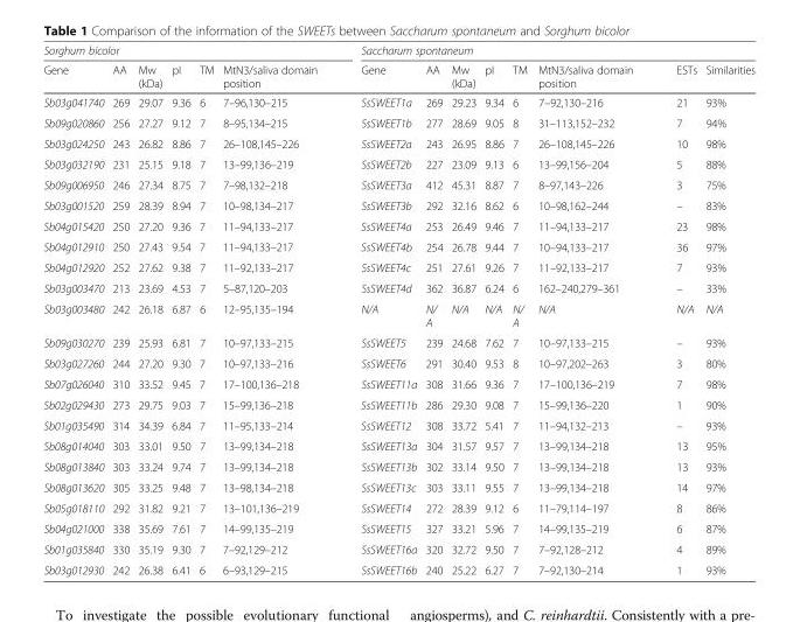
<table><thead><tr><td colspan="6">Sorghum bicolor</td><td colspan="8">Saccharum spontaneum</td></tr><tr><td>Gene</td><td>AA</td><td>Mw (kDa)</td><td>pI</td><td>TM</td><td>MtN3/saliva domain position</td><td>Gene</td><td>AA</td><td>Mw (kDa)</td><td>pI</td><td>TM</td><td>MtN3/saliva domain position</td><td>ESTs</td><td>Similarities</td></tr></thead><tbody><tr><td>Sb03g041740</td><td>269</td><td>29.07</td><td>9.36</td><td>6</td><td>7–96,130–215</td><td>SsSWEET1a</td><td>269</td><td>29.23</td><td>9.34</td><td>6</td><td>7–92,130–216</td><td>21</td><td>93%</td></tr><tr><td>Sb09g020860</td><td>256</td><td>27.27</td><td>9.12</td><td>7</td><td>8–95,134–215</td><td>SsSWEET1b</td><td>277</td><td>28.69</td><td>9.05</td><td>8</td><td>31–113,152–232</td><td>7</td><td>94%</td></tr><tr><td>Sb03g024250</td><td>243</td><td>26.82</td><td>8.86</td><td>7</td><td>26–108,145–226</td><td>SsSWEET2a</td><td>243</td><td>26.95</td><td>8.86</td><td>7</td><td>26–108,145–226</td><td>10</td><td>98%</td></tr><tr><td>Sb03g032190</td><td>231</td><td>25.15</td><td>9.18</td><td>7</td><td>13–99,136–219</td><td>SsSWEET2b</td><td>227</td><td>23.09</td><td>9.13</td><td>6</td><td>13–99,156–204</td><td>5</td><td>88%</td></tr><tr><td>Sb09g006950</td><td>246</td><td>27.34</td><td>8.75</td><td>7</td><td>7–98,132–218</td><td>SsSWEET3a</td><td>412</td><td>45.31</td><td>8.87</td><td>7</td><td>8–97,143–226</td><td>3</td><td>75%</td></tr><tr><td>Sb03g001520</td><td>259</td><td>28.39</td><td>8.94</td><td>7</td><td>10–98,134–217</td><td>SsSWEET3b</td><td>292</td><td>32.16</td><td>8.62</td><td>6</td><td>10–98,162–244</td><td>–</td><td>83%</td></tr><tr><td>Sb04g015420</td><td>250</td><td>27.20</td><td>9.36</td><td>7</td><td>11–94,133–217</td><td>SsSWEET4a</td><td>253</td><td>26.49</td><td>9.46</td><td>7</td><td>11–94,133–217</td><td>23</td><td>98%</td></tr><tr><td>Sb04g012910</td><td>250</td><td>27.43</td><td>9.54</td><td>7</td><td>11–94,133–217</td><td>SsSWEET4b</td><td>254</td><td>26.78</td><td>9.44</td><td>7</td><td>10–94,133–217</td><td>36</td><td>97%</td></tr><tr><td>Sb04g012920</td><td>252</td><td>27.62</td><td>9.38</td><td>7</td><td>11–92,133–217</td><td>SsSWEET4c</td><td>251</td><td>27.61</td><td>9.26</td><td>7</td><td>11–92,133–217</td><td>7</td><td>93%</td></tr><tr><td>Sb03g003470</td><td>213</td><td>23.69</td><td>4.53</td><td>7</td><td>5–87,120–203</td><td>SsSWEET4d</td><td>362</td><td>36.87</td><td>6.24</td><td>6</td><td>162–240,279–361</td><td>–</td><td>33%</td></tr><tr><td>Sb03g003480</td><td>242</td><td>26.18</td><td>6.87</td><td>6</td><td>12–95,135–194</td><td>N/A</td><td>N/ A</td><td>N/A</td><td>N/A</td><td>N/ A</td><td>N/A</td><td>N/A</td><td>N/A</td></tr><tr><td>Sb09g030270</td><td>239</td><td>25.93</td><td>6.81</td><td>7</td><td>10–97,133–215</td><td>SsSWEET5</td><td>239</td><td>24.68</td><td>7.62</td><td>7</td><td>10–97,133–215</td><td>–</td><td>93%</td></tr><tr><td>Sb03g027260</td><td>244</td><td>27.20</td><td>9.30</td><td>7</td><td>10–97,133–216</td><td>SsSWEET6</td><td>291</td><td>30.40</td><td>9.53</td><td>8</td><td>10–97,202–263</td><td>3</td><td>80%</td></tr><tr><td>Sb07g026040</td><td>310</td><td>33.52</td><td>9.45</td><td>7</td><td>17–100,136–218</td><td>SsSWEET11a</td><td>308</td><td>31.66</td><td>9.36</td><td>7</td><td>17–100,136–219</td><td>7</td><td>98%</td></tr><tr><td>Sb02g029430</td><td>273</td><td>29.75</td><td>9.03</td><td>7</td><td>15–99,136–218</td><td>SsSWEET11b</td><td>286</td><td>29.30</td><td>9.08</td><td>7</td><td>15–99,136–220</td><td>1</td><td>90%</td></tr><tr><td>Sb01g035490</td><td>314</td><td>34.39</td><td>6.84</td><td>7</td><td>11–95,133–214</td><td>SsSWEET12</td><td>308</td><td>33.72</td><td>5.41</td><td>7</td><td>11–94,132–213</td><td>–</td><td>93%</td></tr><tr><td>Sb08g014040</td><td>303</td><td>33.01</td><td>9.50</td><td>7</td><td>13–99,134–218</td><td>SsSWEET13a</td><td>304</td><td>31.57</td><td>9.57</td><td>7</td><td>13–99,134–218</td><td>13</td><td>95%</td></tr><tr><td>Sb08g013840</td><td>303</td><td>33.24</td><td>9.74</td><td>7</td><td>13–99,134–218</td><td>SsSWEET13b</td><td>302</td><td>33.14</td><td>9.50</td><td>7</td><td>13–99,134–218</td><td>13</td><td>93%</td></tr><tr><td>Sb08g013620</td><td>305</td><td>33.25</td><td>9.48</td><td>7</td><td>13–98,134–218</td><td>SsSWEET13c</td><td>303</td><td>33.11</td><td>9.55</td><td>7</td><td>13–99,134–218</td><td>14</td><td>97%</td></tr><tr><td>Sb05g018110</td><td>292</td><td>31.82</td><td>9.21</td><td>7</td><td>13–101,136–219</td><td>SsSWEET14</td><td>272</td><td>28.39</td><td>9.12</td><td>6</td><td>11–79,114–197</td><td>8</td><td>86%</td></tr><tr><td>Sb04g021000</td><td>338</td><td>35.69</td><td>7.61</td><td>7</td><td>14–99,135–219</td><td>SsSWEET15</td><td>327</td><td>33.21</td><td>5.96</td><td>7</td><td>14–99,135–219</td><td>6</td><td>87%</td></tr><tr><td>Sb01g035840</td><td>330</td><td>35.19</td><td>9.30</td><td>7</td><td>7–92,129–212</td><td>SsSWEET16a</td><td>320</td><td>32.72</td><td>9.50</td><td>7</td><td>7–92,128–212</td><td>4</td><td>89%</td></tr><tr><td>Sb03g012930</td><td>242</td><td>26.38</td><td>6.41</td><td>6</td><td>6–93,129–215</td><td>SsSWEET16b</td><td>240</td><td>25.22</td><td>6.27</td><td>7</td><td>7–92,130–214</td><td>1</td><td>93%</td></tr></tbody></table>